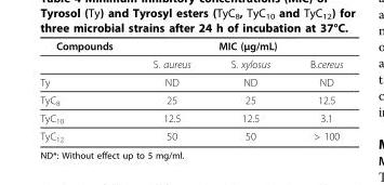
<table><thead><tr><td rowspan="2">Compounds</td><td colspan="3">MIC (μg/mL)</td></tr><tr><td>S. aureus</td><td>S. xylosus</td><td>B.cereus</td></tr></thead><tbody><tr><td>Ty</td><td>ND</td><td>ND</td><td>ND</td></tr><tr><td>TyC8</td><td>25</td><td>25</td><td>12.5</td></tr><tr><td>TyC10</td><td>12.5</td><td>12.5</td><td>3.1</td></tr><tr><td>TyC12</td><td>50</td><td>50</td><td>&gt; 100</td></tr></tbody></table>